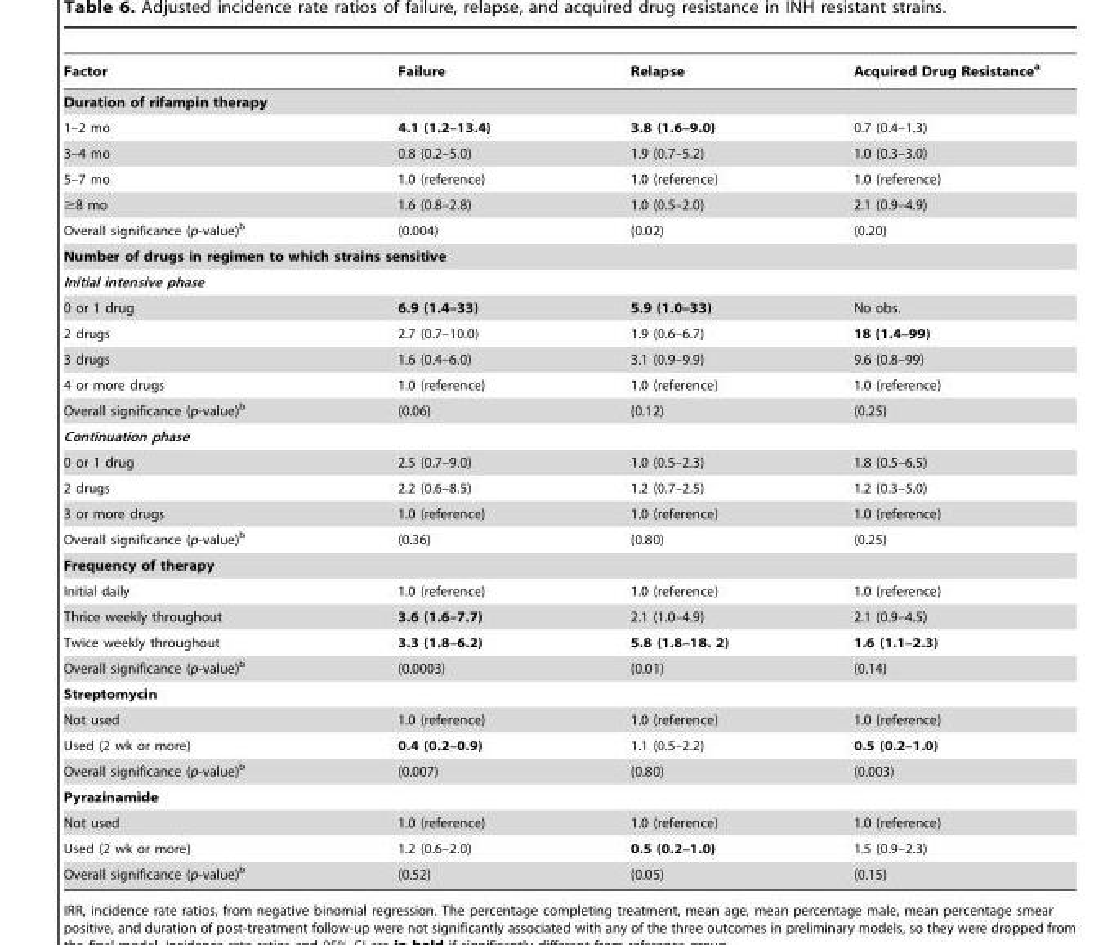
<table><thead><tr><td>Factor</td><td>Failure</td><td>Relapse</td><td>Acquired Drug Resistance<sup>a</sup></td></tr></thead><tbody><tr><td colspan="4">Duration of rifampin therapy</td></tr><tr><td>1–2 mo</td><td>4.1 (1.2–13.4)</td><td>3.8 (1.6–9.0)</td><td>0.7 (0.4–1.3)</td></tr><tr><td>3–4 mo</td><td>0.8 (0.2–5.0)</td><td>1.9 (0.7–5.2)</td><td>1.0 (0.3–3.0)</td></tr><tr><td>5–7 mo</td><td>1.0 (reference)</td><td>1.0 (reference)</td><td>1.0 (reference)</td></tr><tr><td>≥8 mo</td><td>1.6 (0.8–2.8)</td><td>1.0 (0.5–2.0)</td><td>2.1 (0.9–4.9)</td></tr><tr><td>Overall significance (p-value)<sup>b</sup></td><td>(0.004)</td><td>(0.02)</td><td>(0.20)</td></tr><tr><td colspan="4">Number of drugs in regimen to which strains sensitive</td></tr><tr><td colspan="4">Initial intensive phase</td></tr><tr><td>0 or 1 drug</td><td>6.9 (1.4–33)</td><td>5.9 (1.0–33)</td><td>No obs.</td></tr><tr><td>2 drugs</td><td>2.7 (0.7–10.0)</td><td>1.9 (0.6–6.7)</td><td>18 (1.4–99)</td></tr><tr><td>3 drugs</td><td>1.6 (0.4–6.0)</td><td>3.1 (0.9–9.9)</td><td>9.6 (0.8–99)</td></tr><tr><td>4 or more drugs</td><td>1.0 (reference)</td><td>1.0 (reference)</td><td>1.0 (reference)</td></tr><tr><td>Overall significance (p-value)<sup>b</sup></td><td>(0.06)</td><td>(0.12)</td><td>(0.25)</td></tr><tr><td colspan="4">Continuation phase</td></tr><tr><td>0 or 1 drug</td><td>2.5 (0.7–9.0)</td><td>1.0 (0.5–2.3)</td><td>1.8 (0.5–6.5)</td></tr><tr><td>2 drugs</td><td>2.2 (0.6–8.5)</td><td>1.2 (0.7–2.5)</td><td>1.2 (0.3–5.0)</td></tr><tr><td>3 or more drugs</td><td>1.0 (reference)</td><td>1.0 (reference)</td><td>1.0 (reference)</td></tr><tr><td>Overall significance (p-value)<sup>b</sup></td><td>(0.36)</td><td>(0.80)</td><td>(0.25)</td></tr><tr><td colspan="4">Frequency of therapy</td></tr><tr><td>Initial daily</td><td>1.0 (reference)</td><td>1.0 (reference)</td><td>1.0 (reference)</td></tr><tr><td>Thrice weekly throughout</td><td>3.6 (1.6–7.7)</td><td>2.1 (1.0–4.9)</td><td>2.1 (0.9–4.5)</td></tr><tr><td>Twice weekly throughout</td><td>3.3 (1.8–6.2)</td><td>5.8 (1.8–18. 2)</td><td>1.6 (1.1–2.3)</td></tr><tr><td>Overall significance (p-value)<sup>b</sup></td><td>(0.0003)</td><td>(0.01)</td><td>(0.14)</td></tr><tr><td colspan="4">Streptomycin</td></tr><tr><td>Not used</td><td>1.0 (reference)</td><td>1.0 (reference)</td><td>1.0 (reference)</td></tr><tr><td>Used (2 wk or more)</td><td>0.4 (0.2–0.9)</td><td>1.1 (0.5–2.2)</td><td>0.5 (0.2–1.0)</td></tr><tr><td>Overall significance (p-value)<sup>b</sup></td><td>(0.007)</td><td>(0.80)</td><td>(0.003)</td></tr><tr><td colspan="4">Pyrazinamide</td></tr><tr><td>Not used</td><td>1.0 (reference)</td><td>1.0 (reference)</td><td>1.0 (reference)</td></tr><tr><td>Used (2 wk or more)</td><td>1.2 (0.6–2.0)</td><td>0.5 (0.2–1.0)</td><td>1.5 (0.9–2.3)</td></tr><tr><td>Overall significance (p-value)<sup>b</sup></td><td>(0.52)</td><td>(0.05)</td><td>(0.15)</td></tr></tbody></table>